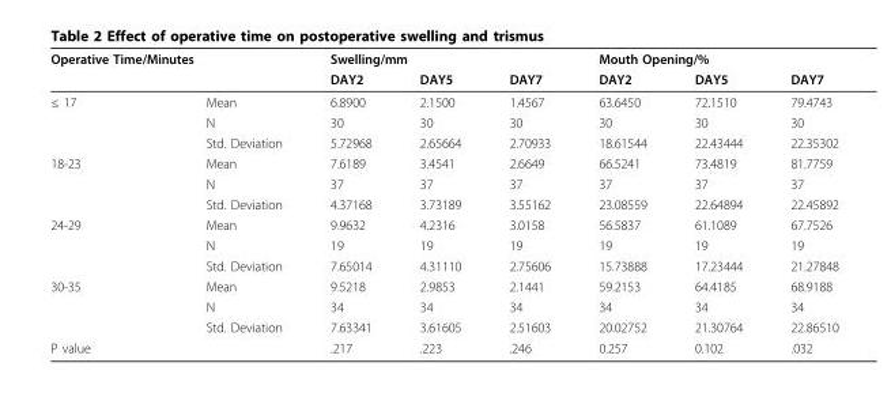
<table><thead><tr><td rowspan="2">Operative Time/Minutes</td><td rowspan="2"></td><td colspan="3">Swelling/mm</td><td colspan="3">Mouth Opening/%</td></tr><tr><td>DAY2</td><td>DAY5</td><td>DAY7</td><td>DAY2</td><td>DAY5</td><td>DAY7</td></tr></thead><tbody><tr><td rowspan="3">≤ 17</td><td>Mean</td><td>6.8900</td><td>2.1500</td><td>1.4567</td><td>63.6450</td><td>72.1510</td><td>79.4743</td></tr><tr><td>N</td><td>30</td><td>30</td><td>30</td><td>30</td><td>30</td><td>30</td></tr><tr><td>Std. Deviation</td><td>5.72968</td><td>2.65664</td><td>2.70933</td><td>18.61544</td><td>22.43444</td><td>22.35302</td></tr><tr><td rowspan="3">18-23</td><td>Mean</td><td>7.6189</td><td>3.4541</td><td>2.6649</td><td>66.5241</td><td>73.4819</td><td>81.7759</td></tr><tr><td>N</td><td>37</td><td>37</td><td>37</td><td>37</td><td>37</td><td>37</td></tr><tr><td>Std. Deviation</td><td>4.37168</td><td>3.73189</td><td>3.55162</td><td>23.08559</td><td>22.64894</td><td>22.45892</td></tr><tr><td rowspan="3">24-29</td><td>Mean</td><td>9.9632</td><td>4.2316</td><td>3.0158</td><td>56.5837</td><td>61.1089</td><td>67.7526</td></tr><tr><td>N</td><td>19</td><td>19</td><td>19</td><td>19</td><td>19</td><td>19</td></tr><tr><td>Std. Deviation</td><td>7.65014</td><td>4.31110</td><td>2.75606</td><td>15.73888</td><td>17.23444</td><td>21.27848</td></tr><tr><td rowspan="3">30-35</td><td>Mean</td><td>9.5218</td><td>2.9853</td><td>2.1441</td><td>59.2153</td><td>64.4185</td><td>68.9188</td></tr><tr><td>N</td><td>34</td><td>34</td><td>34</td><td>34</td><td>34</td><td>34</td></tr><tr><td>Std. Deviation</td><td>7.63341</td><td>3.61605</td><td>2.51603</td><td>20.02752</td><td>21.30764</td><td>22.86510</td></tr><tr><td>P value</td><td></td><td>.217</td><td>.223</td><td>.246</td><td>0.257</td><td>0.102</td><td>.032</td></tr></tbody></table>